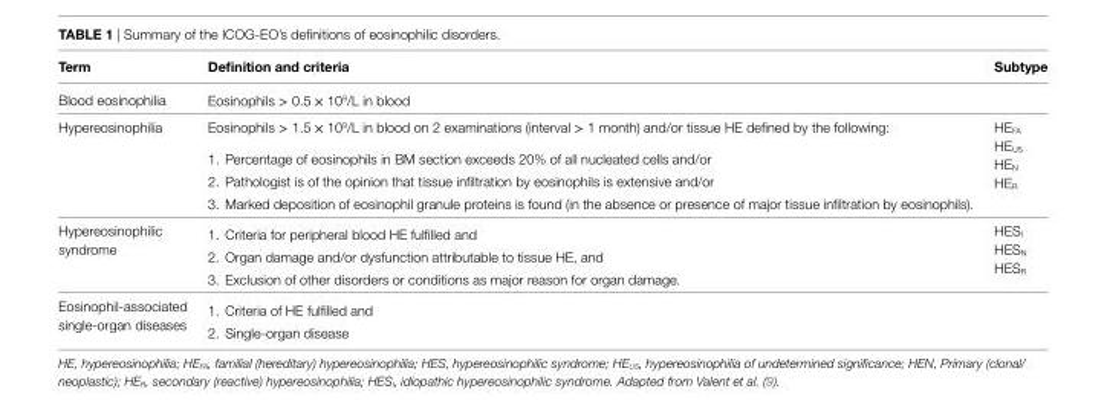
<table><thead><tr><td>Term</td><td>Definition and criteria</td><td>Subtype</td></tr></thead><tbody><tr><td>Blood eosinophilia</td><td>Eosinophils &gt; 0.5 × 10<sup>9</sup>/L in blood</td><td></td></tr><tr><td>Hypereosinophilia</td><td>Eosinophils &gt; 1.5 × 10<sup>9</sup>/L in blood on 2 examinations (interval &gt; 1 month) and/or tissue HE defined by the following: 1. Percentage of eosinophils in BM section exceeds 20% of all nucleated cells and/or 2. Pathologist is of the opinion that tissue infiltration by eosinophils is extensive and/or 3. Marked deposition of eosinophil granule proteins is found (in the absence or presence of major tissue infiltration by eosinophils).</td><td>HE<sub>FA</sub> HE<sub>US</sub> HE<sub>N</sub> HE<sub>R</sub></td></tr><tr><td>Hypereosinophilic syndrome</td><td>1. Criteria for peripheral blood HE fulfilled and 2. Organ damage and/or dysfunction attributable to tissue HE, and 3. Exclusion of other disorders or conditions as major reason for organ damage.</td><td>HES<sub>I</sub> HES<sub>N</sub> HES<sub>R</sub></td></tr><tr><td>Eosinophil-associated single-organ diseases</td><td>1. Criteria of HE fulfilled and 2. Single-organ disease</td><td></td></tr></tbody></table>